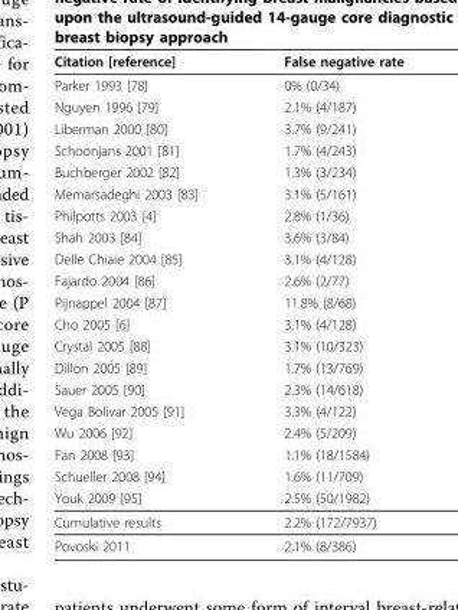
<table><thead><tr><td>Citation [reference]</td><td>False negative rate</td></tr></thead><tbody><tr><td>Parker 1993 [78]</td><td>0% (0/34)</td></tr><tr><td>Nguyen 1996 [79]</td><td>2.1% (4/187)</td></tr><tr><td>Liberman 2000 [80]</td><td>3.7% (9/241)</td></tr><tr><td>Schoonjans 2001 [81]</td><td>1.7% (4/243)</td></tr><tr><td>Buchberger 2002 [82]</td><td>1.3% (3/234)</td></tr><tr><td>Memarsadeghi 2003 [83]</td><td>3.1% (5/161)</td></tr><tr><td>Philpotts 2003 [4]</td><td>2.8% (1/36)</td></tr><tr><td>Shah 2003 [84]</td><td>3.6% (3/84)</td></tr><tr><td>Delle Chiaie 2004 [85]</td><td>3.1% (4/128)</td></tr><tr><td>Fajardo 2004 [86]</td><td>2.6% (2/77)</td></tr><tr><td>Pijnappel 2004 [87]</td><td>11.8% (8/68)</td></tr><tr><td>Cho 2005 [6]</td><td>3.1% (4/128)</td></tr><tr><td>Crystal 2005 [88]</td><td>3.1% (10/323)</td></tr><tr><td>Dillon 2005 [89]</td><td>1.7% (13/769)</td></tr><tr><td>Sauer 2005 [90]</td><td>2.3% (14/618)</td></tr><tr><td>Vega Bolivar 2005 [91]</td><td>3.3% (4/122)</td></tr><tr><td>Wu 2006 [92]</td><td>2.4% (5/209)</td></tr><tr><td>Fan 2008 [93]</td><td>1.1% (18/1584)</td></tr><tr><td>Schueller 2008 [94]</td><td>1.6% (11/709)</td></tr><tr><td>Youk 2009 [95]</td><td>2.5% (50/1982)</td></tr><tr><td>Cumulative results</td><td>2.2% (172/7937)</td></tr><tr><td>Povoski 2011</td><td>2.1% (8/386)</td></tr></tbody></table>